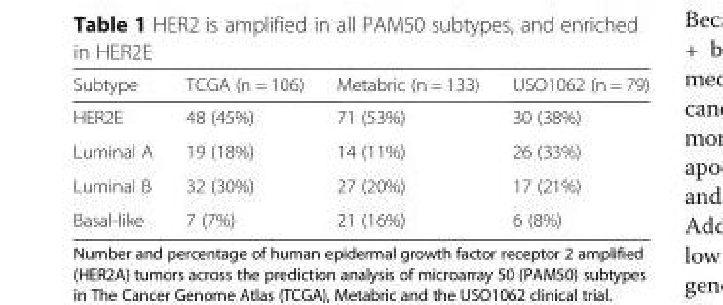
<table><thead><tr><td>Subtype</td><td>TCGA (n = 106)</td><td>Metabric (n = 133)</td><td>USO1062 (n = 79)</td></tr></thead><tbody><tr><td>HER2E</td><td>48 (45%)</td><td>71 (53%)</td><td>30 (38%)</td></tr><tr><td>Luminal A</td><td>19 (18%)</td><td>14 (11%)</td><td>26 (33%)</td></tr><tr><td>Luminal B</td><td>32 (30%)</td><td>27 (20%)</td><td>17 (21%)</td></tr><tr><td>Basal-like</td><td>7 (7%)</td><td>21 (16%)</td><td>6 (8%)</td></tr></tbody></table>